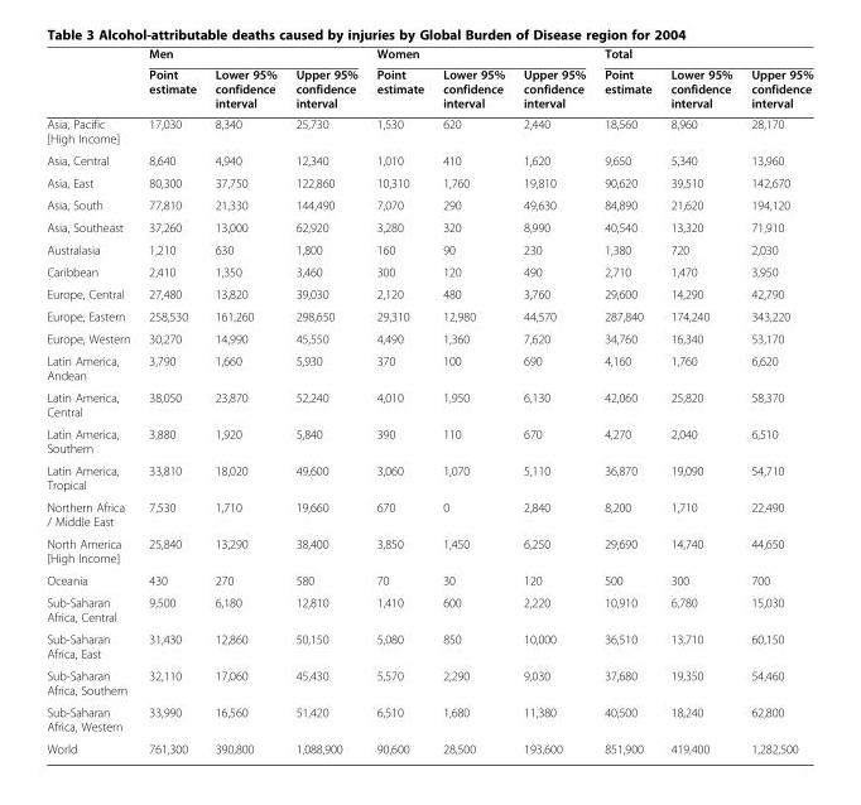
<table><thead><tr><td rowspan="2"></td><td colspan="3">Men</td><td colspan="3">Women</td><td colspan="3">Total</td></tr><tr><td>Point estimate</td><td>Lower 95% confidence interval</td><td>Upper 95% confidence interval</td><td>Point estimate</td><td>Lower 95% confidence interval</td><td>Upper 95% confidence interval</td><td>Point estimate</td><td>Lower 95% confidence interval</td><td>Upper 95% confidence interval</td></tr></thead><tbody><tr><td>Asia, Pacific [High Income]</td><td>17,030</td><td>8,340</td><td>25,730</td><td>1,530</td><td>620</td><td>2,440</td><td>18,560</td><td>8,960</td><td>28,170</td></tr><tr><td>Asia, Central</td><td>8,640</td><td>4,940</td><td>12,340</td><td>1,010</td><td>410</td><td>1,620</td><td>9,650</td><td>5,340</td><td>13,960</td></tr><tr><td>Asia, East</td><td>80,300</td><td>37,750</td><td>122,860</td><td>10,310</td><td>1,760</td><td>19,810</td><td>90,620</td><td>39,510</td><td>142,670</td></tr><tr><td>Asia, South</td><td>77,810</td><td>21,330</td><td>144,490</td><td>7,070</td><td>290</td><td>49,630</td><td>84,890</td><td>21,620</td><td>194,120</td></tr><tr><td>Asia, Southeast</td><td>37,260</td><td>13,000</td><td>62,920</td><td>3,280</td><td>320</td><td>8,990</td><td>40,540</td><td>13,320</td><td>71,910</td></tr><tr><td>Australasia</td><td>1,210</td><td>630</td><td>1,800</td><td>160</td><td>90</td><td>230</td><td>1,380</td><td>720</td><td>2,030</td></tr><tr><td>Caribbean</td><td>2,410</td><td>1,350</td><td>3,460</td><td>300</td><td>120</td><td>490</td><td>2,710</td><td>1,470</td><td>3,950</td></tr><tr><td>Europe, Central</td><td>27,480</td><td>13,820</td><td>39,030</td><td>2,120</td><td>480</td><td>3,760</td><td>29,600</td><td>14,290</td><td>42,790</td></tr><tr><td>Europe, Eastern</td><td>258,530</td><td>161,260</td><td>298,650</td><td>29,310</td><td>12,980</td><td>44,570</td><td>287,840</td><td>174,240</td><td>343,220</td></tr><tr><td>Europe, Western</td><td>30,270</td><td>14,990</td><td>45,550</td><td>4,490</td><td>1,360</td><td>7,620</td><td>34,760</td><td>16,340</td><td>53,170</td></tr><tr><td>Latin America, Andean</td><td>3,790</td><td>1,660</td><td>5,930</td><td>370</td><td>100</td><td>690</td><td>4,160</td><td>1,760</td><td>6,620</td></tr><tr><td>Latin America, Central</td><td>38,050</td><td>23,870</td><td>52,240</td><td>4,010</td><td>1,950</td><td>6,130</td><td>42,060</td><td>25,820</td><td>58,370</td></tr><tr><td>Latin America, Southern</td><td>3,880</td><td>1,920</td><td>5,840</td><td>390</td><td>110</td><td>670</td><td>4,270</td><td>2,040</td><td>6,510</td></tr><tr><td>Latin America, Tropical</td><td>33,810</td><td>18,020</td><td>49,600</td><td>3,060</td><td>1,070</td><td>5,110</td><td>36,870</td><td>19,090</td><td>54,710</td></tr><tr><td>Northern Africa / Middle East</td><td>7,530</td><td>1,710</td><td>19,660</td><td>670</td><td>0</td><td>2,840</td><td>8,200</td><td>1,710</td><td>22,490</td></tr><tr><td>North America [High Income]</td><td>25,840</td><td>13,290</td><td>38,400</td><td>3,850</td><td>1,450</td><td>6,250</td><td>29,690</td><td>14,740</td><td>44,650</td></tr><tr><td>Oceania</td><td>430</td><td>270</td><td>580</td><td>70</td><td>30</td><td>120</td><td>500</td><td>300</td><td>700</td></tr><tr><td>Sub-Saharan Africa, Central</td><td>9,500</td><td>6,180</td><td>12,810</td><td>1,410</td><td>600</td><td>2,220</td><td>10,910</td><td>6,780</td><td>15,030</td></tr><tr><td>Sub-Saharan Africa, East</td><td>31,430</td><td>12,860</td><td>50,150</td><td>5,080</td><td>850</td><td>10,000</td><td>36,510</td><td>13,710</td><td>60,150</td></tr><tr><td>Sub-Saharan Africa, Southern</td><td>32,110</td><td>17,060</td><td>45,430</td><td>5,570</td><td>2,290</td><td>9,030</td><td>37,680</td><td>19,350</td><td>54,460</td></tr><tr><td>Sub-Saharan Africa, Western</td><td>33,990</td><td>16,560</td><td>51,420</td><td>6,510</td><td>1,680</td><td>11,380</td><td>40,500</td><td>18,240</td><td>62,800</td></tr><tr><td>World</td><td>761,300</td><td>390,800</td><td>1,088,900</td><td>90,600</td><td>28,500</td><td>193,600</td><td>851,900</td><td>419,400</td><td>1,282,500</td></tr></tbody></table>